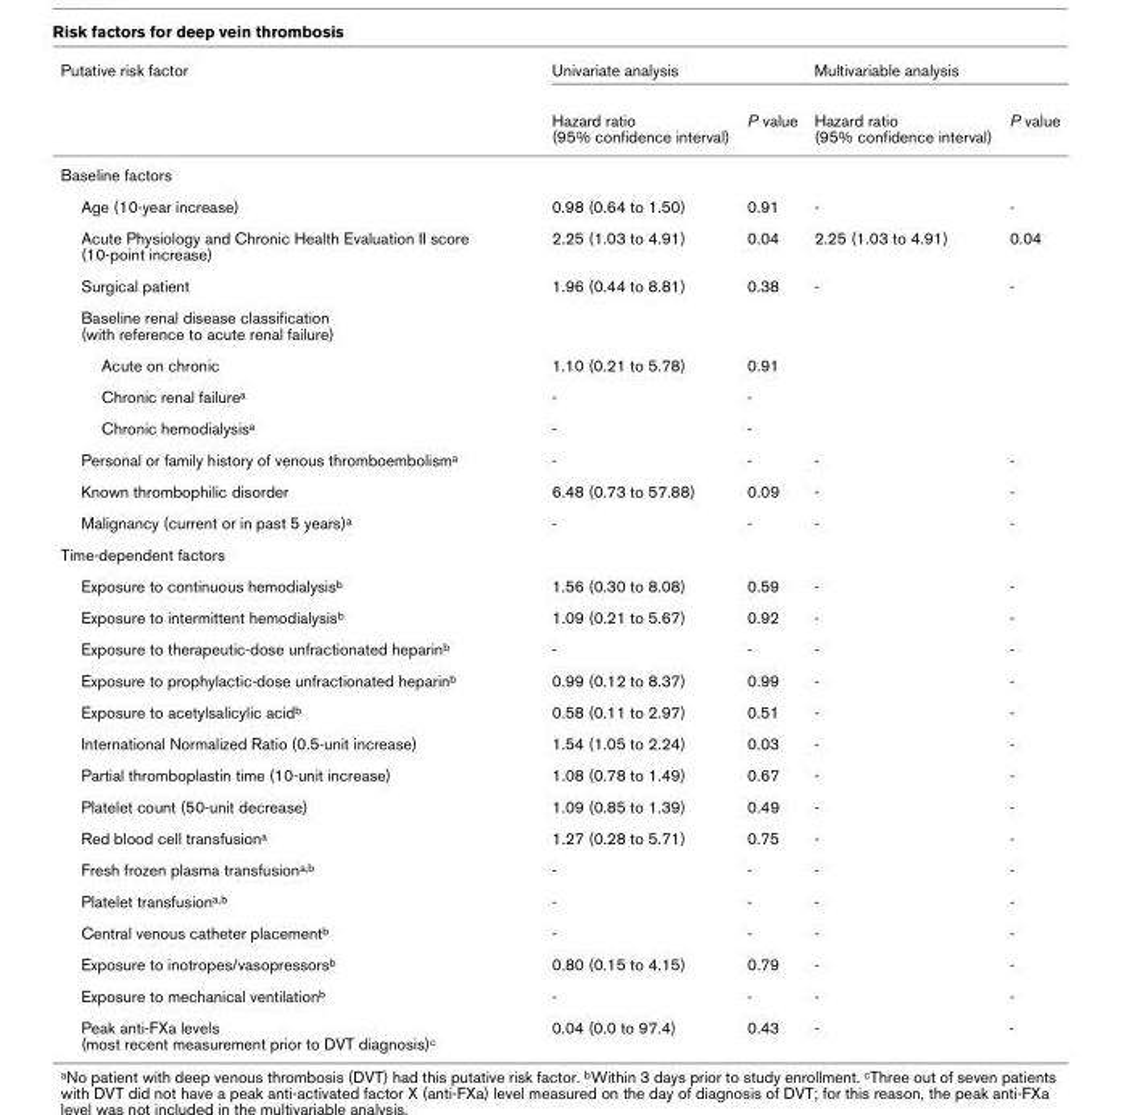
<table><thead><tr><td rowspan="2">Putative risk factor</td><td colspan="2">Univariate analysis</td><td colspan="2">Multivariable analysis</td></tr><tr><td>Hazard ratio (95% confidence interval)</td><td>P value</td><td>Hazard ratio (95% confidence interval)</td><td>P value</td></tr></thead><tbody><tr><td colspan="5">Baseline factors</td></tr><tr><td>Age (10-year increase)</td><td>0.98 (0.64 to 1.50)</td><td>0.91</td><td>-</td><td>-</td></tr><tr><td>Acute Physiology and Chronic Health Evaluation II score (10-point increase)</td><td>2.25 (1.03 to 4.91)</td><td>0.04</td><td>2.25 (1.03 to 4.91)</td><td>0.04</td></tr><tr><td>Surgical patient</td><td>1.96 (0.44 to 8.81)</td><td>0.38</td><td>-</td><td>-</td></tr><tr><td colspan="5">Baseline renal disease classification (with reference to acute renal failure)</td></tr><tr><td>Acute on chronic</td><td>1.10 (0.21 to 5.78)</td><td>0.91</td><td></td><td></td></tr><tr><td>Chronic renal failure<sup>a</sup></td><td>-</td><td>-</td><td></td><td></td></tr><tr><td>Chronic hemodialysis<sup>a</sup></td><td>-</td><td>-</td><td></td><td></td></tr><tr><td>Personal or family history of venous thromboembolism<sup>a</sup></td><td>-</td><td>-</td><td>-</td><td>-</td></tr><tr><td>Known thrombophilic disorder</td><td>6.48 (0.73 to 57.88)</td><td>0.09</td><td>-</td><td>-</td></tr><tr><td>Malignancy (current or in past 5 years)<sup>a</sup></td><td>-</td><td>-</td><td>-</td><td>-</td></tr><tr><td colspan="5">Time-dependent factors</td></tr><tr><td>Exposure to continuous hemodialysis<sup>b</sup></td><td>1.56 (0.30 to 8.08)</td><td>0.59</td><td>-</td><td>-</td></tr><tr><td>Exposure to intermittent hemodialysis<sup>b</sup></td><td>1.09 (0.21 to 5.67)</td><td>0.92</td><td>-</td><td>-</td></tr><tr><td>Exposure to therapeutic-dose unfractionated heparin<sup>b</sup></td><td>-</td><td>-</td><td>-</td><td>-</td></tr><tr><td>Exposure to prophylactic-dose unfractionated heparin<sup>b</sup></td><td>0.99 (0.12 to 8.37)</td><td>0.99</td><td>-</td><td>-</td></tr><tr><td>Exposure to acetylsalicylic acid<sup>b</sup></td><td>0.58 (0.11 to 2.97)</td><td>0.51</td><td>-</td><td>-</td></tr><tr><td>International Normalized Ratio (0.5-unit increase)</td><td>1.54 (1.05 to 2.24)</td><td>0.03</td><td>-</td><td>-</td></tr><tr><td>Partial thromboplastin time (10-unit increase)</td><td>1.08 (0.78 to 1.49)</td><td>0.67</td><td>-</td><td>-</td></tr><tr><td>Platelet count (50-unit decrease)</td><td>1.09 (0.85 to 1.39)</td><td>0.49</td><td>-</td><td>-</td></tr><tr><td>Red blood cell transfusion<sup>a</sup></td><td>1.27 (0.28 to 5.71)</td><td>0.75</td><td>-</td><td>-</td></tr><tr><td>Fresh frozen plasma transfusion<sup>a,b</sup></td><td>-</td><td>-</td><td>-</td><td>-</td></tr><tr><td>Platelet transfusion<sup>a,b</sup></td><td>-</td><td>-</td><td>-</td><td>-</td></tr><tr><td>Central venous catheter placement<sup>b</sup></td><td>-</td><td>-</td><td>-</td><td>-</td></tr><tr><td>Exposure to inotropes/vasopressors<sup>b</sup></td><td>0.80 (0.15 to 4.15)</td><td>0.79</td><td>-</td><td>-</td></tr><tr><td>Exposure to mechanical ventilation<sup>b</sup></td><td>-</td><td>-</td><td>-</td><td>-</td></tr><tr><td>Peak anti-FXa levels (most recent measurement prior to DVT diagnosis)<sup>c</sup></td><td>0.04 (0.0 to 97.4)</td><td>0.43</td><td>-</td><td>-</td></tr></tbody></table>